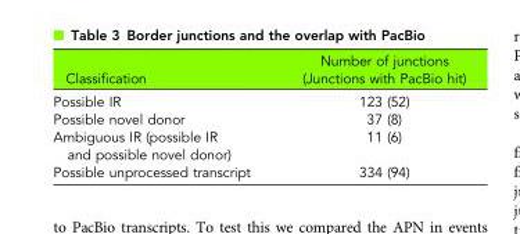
<table><thead><tr><td>Classification</td><td>Number of junctions (Junctions with PacBio hit)</td></tr></thead><tbody><tr><td>Possible IR</td><td>123 (52)</td></tr><tr><td>Possible novel donor</td><td>37 (8)</td></tr><tr><td>Ambiguous IR (possible IR and possible novel donor)</td><td>11 (6)</td></tr><tr><td>Possible unprocessed transcript</td><td>334 (94)</td></tr></tbody></table>